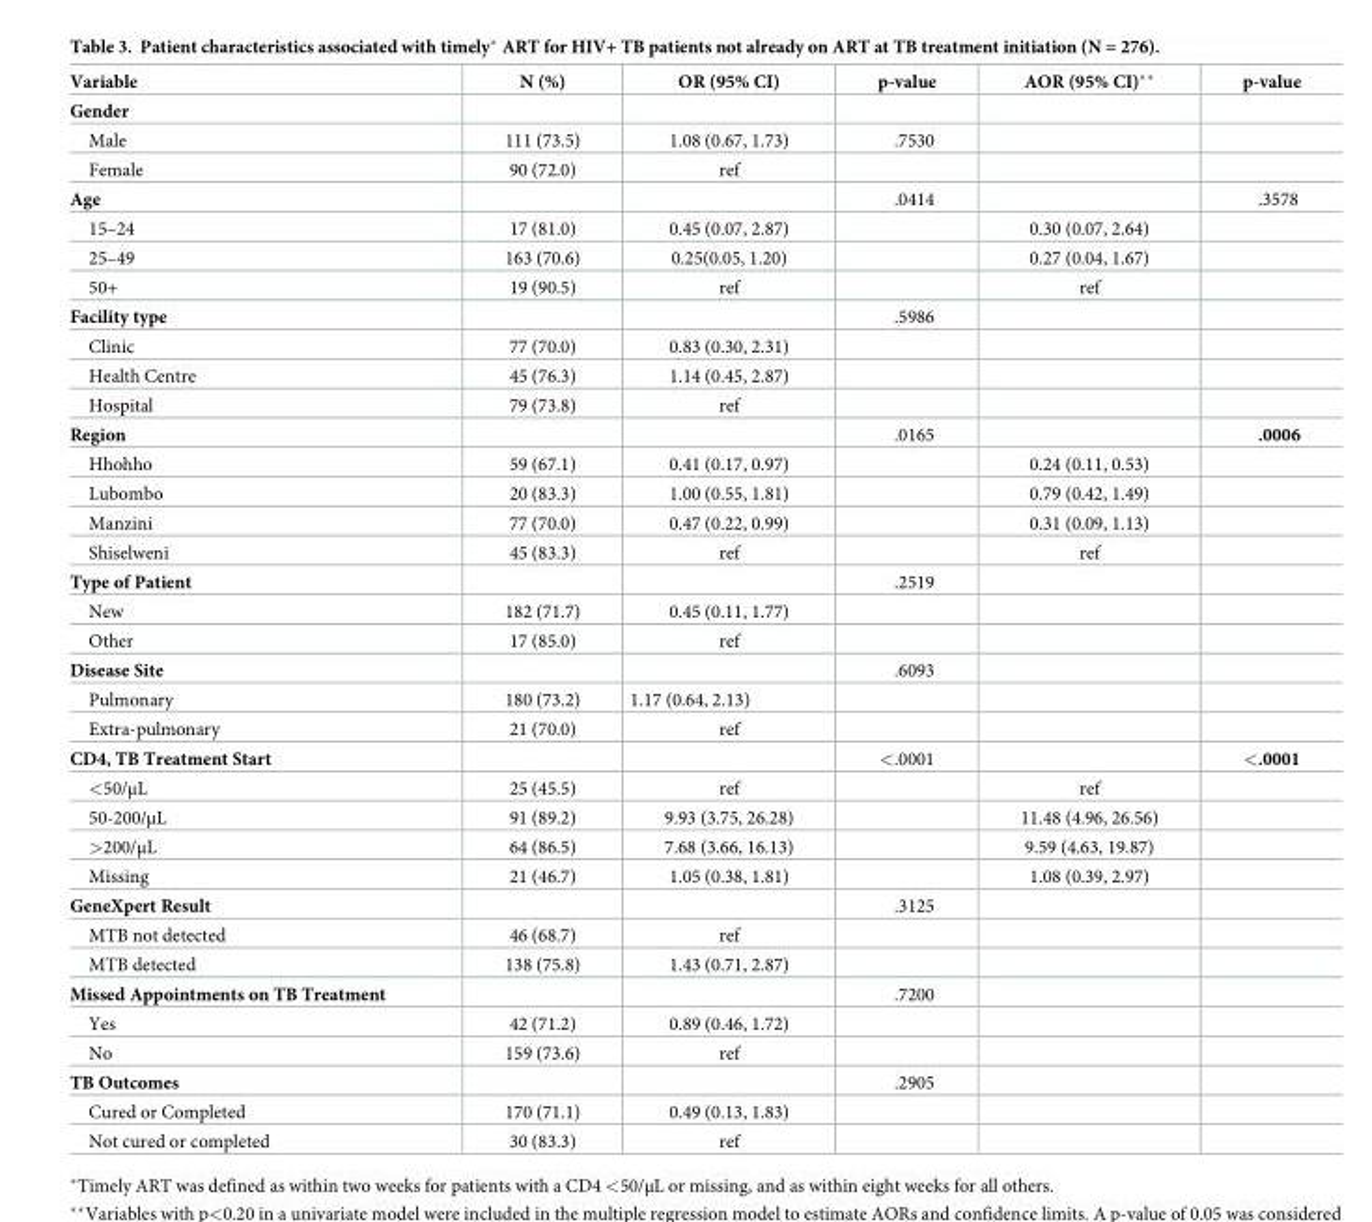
<table><thead><tr><td>Variable</td><td>N (%)</td><td>OR (95% CI)</td><td>p-value</td><td>AOR (95% CI)**</td><td>p-value</td></tr></thead><tbody><tr><td colspan="6">Gender</td></tr><tr><td>Male</td><td>111 (73.5)</td><td>1.08 (0.67, 1.73)</td><td>.7530</td><td></td><td></td></tr><tr><td>Female</td><td>90 (72.0)</td><td>ref</td><td></td><td></td><td></td></tr><tr><td>Age</td><td></td><td></td><td>.0414</td><td></td><td>.3578</td></tr><tr><td>15–24</td><td>17 (81.0)</td><td>0.45 (0.07, 2.87)</td><td></td><td>0.30 (0.07, 2.64)</td><td></td></tr><tr><td>25–49</td><td>163 (70.6)</td><td>0.25(0.05, 1.20)</td><td></td><td>0.27 (0.04, 1.67)</td><td></td></tr><tr><td>50+</td><td>19 (90.5)</td><td>ref</td><td></td><td>ref</td><td></td></tr><tr><td>Facility type</td><td></td><td></td><td>.5986</td><td></td><td></td></tr><tr><td>Clinic</td><td>77 (70.0)</td><td>0.83 (0.30, 2.31)</td><td></td><td></td><td></td></tr><tr><td>Health Centre</td><td>45 (76.3)</td><td>1.14 (0.45, 2.87)</td><td></td><td></td><td></td></tr><tr><td>Hospital</td><td>79 (73.8)</td><td>ref</td><td></td><td></td><td></td></tr><tr><td>Region</td><td></td><td></td><td>.0165</td><td></td><td>.0006</td></tr><tr><td>Hhohho</td><td>59 (67.1)</td><td>0.41 (0.17, 0.97)</td><td></td><td>0.24 (0.11, 0.53)</td><td></td></tr><tr><td>Lubombo</td><td>20 (83.3)</td><td>1.00 (0.55, 1.81)</td><td></td><td>0.79 (0.42, 1.49)</td><td></td></tr><tr><td>Manzini</td><td>77 (70.0)</td><td>0.47 (0.22, 0.99)</td><td></td><td>0.31 (0.09, 1.13)</td><td></td></tr><tr><td>Shiselweni</td><td>45 (83.3)</td><td>ref</td><td></td><td>ref</td><td></td></tr><tr><td>Type of Patient</td><td></td><td></td><td>.2519</td><td></td><td></td></tr><tr><td>New</td><td>182 (71.7)</td><td>0.45 (0.11, 1.77)</td><td></td><td></td><td></td></tr><tr><td>Other</td><td>17 (85.0)</td><td>ref</td><td></td><td></td><td></td></tr><tr><td>Disease Site</td><td></td><td></td><td>.6093</td><td></td><td></td></tr><tr><td>Pulmonary</td><td>180 (73.2)</td><td>1.17 (0.64, 2.13)</td><td></td><td></td><td></td></tr><tr><td>Extra-pulmonary</td><td>21 (70.0)</td><td>ref</td><td></td><td></td><td></td></tr><tr><td>CD4, TB Treatment Start</td><td></td><td></td><td>&lt;.0001</td><td></td><td>&lt;.0001</td></tr><tr><td>&lt;50/μL</td><td>25 (45.5)</td><td>ref</td><td></td><td>ref</td><td></td></tr><tr><td>50-200/μL</td><td>91 (89.2)</td><td>9.93 (3.75, 26.28)</td><td></td><td>11.48 (4.96, 26.56)</td><td></td></tr><tr><td>&gt;200/μL</td><td>64 (86.5)</td><td>7.68 (3.66, 16.13)</td><td></td><td>9.59 (4.63, 19.87)</td><td></td></tr><tr><td>Missing</td><td>21 (46.7)</td><td>1.05 (0.38, 1.81)</td><td></td><td>1.08 (0.39, 2.97)</td><td></td></tr><tr><td>GeneXpert Result</td><td></td><td></td><td>.3125</td><td></td><td></td></tr><tr><td>MTB not detected</td><td>46 (68.7)</td><td>ref</td><td></td><td></td><td></td></tr><tr><td>MTB detected</td><td>138 (75.8)</td><td>1.43 (0.71, 2.87)</td><td></td><td></td><td></td></tr><tr><td>Missed Appointments on TB Treatment</td><td></td><td></td><td>.7200</td><td></td><td></td></tr><tr><td>Yes</td><td>42 (71.2)</td><td>0.89 (0.46, 1.72)</td><td></td><td></td><td></td></tr><tr><td>No</td><td>159 (73.6)</td><td>ref</td><td></td><td></td><td></td></tr><tr><td>TB Outcomes</td><td></td><td></td><td>.2905</td><td></td><td></td></tr><tr><td>Cured or Completed</td><td>170 (71.1)</td><td>0.49 (0.13, 1.83)</td><td></td><td></td><td></td></tr><tr><td>Not cured or completed</td><td>30 (83.3)</td><td>ref</td><td></td><td></td><td></td></tr></tbody></table>